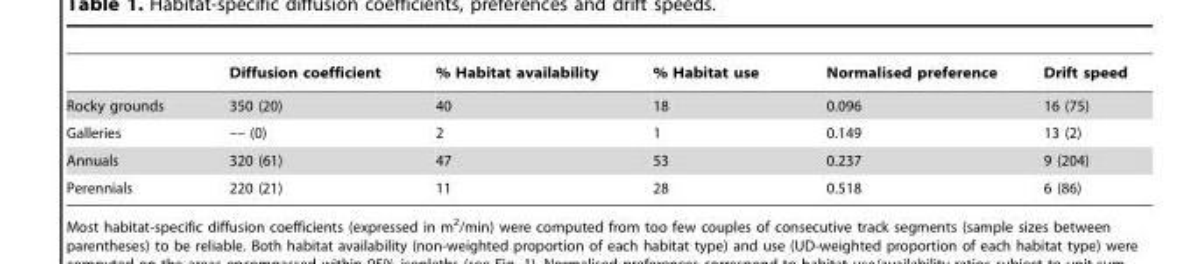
<table><thead><tr><td></td><td>Diffusion coefficient</td><td>% Habitat availability</td><td>% Habitat use</td><td>Normalised preference</td><td>Drift speed</td></tr></thead><tbody><tr><td>Rocky grounds</td><td>350 (20)</td><td>40</td><td>18</td><td>0.096</td><td>16 (75)</td></tr><tr><td>Galleries</td><td>–– (0)</td><td>2</td><td>1</td><td>0.149</td><td>13 (2)</td></tr><tr><td>Annuals</td><td>320 (61)</td><td>47</td><td>53</td><td>0.237</td><td>9 (204)</td></tr><tr><td>Perennials</td><td>220 (21)</td><td>11</td><td>28</td><td>0.518</td><td>6 (86)</td></tr></tbody></table>